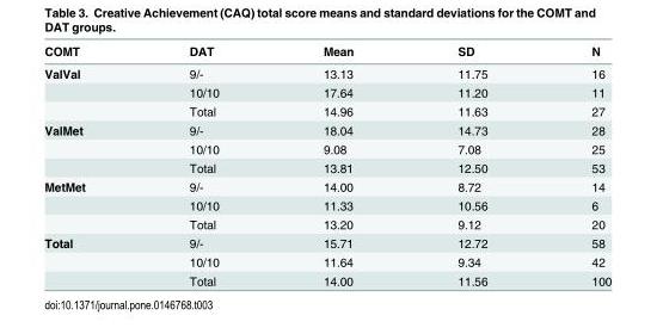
<table><thead><tr><td>COMT</td><td>DAT</td><td>Mean</td><td>SD</td><td>N</td></tr></thead><tbody><tr><td rowspan="3">ValVal</td><td>9/-</td><td>13.13</td><td>11.75</td><td>16</td></tr><tr><td>10/10</td><td>17.64</td><td>11.20</td><td>11</td></tr><tr><td>Total</td><td>14.96</td><td>11.63</td><td>27</td></tr><tr><td rowspan="3">ValMet</td><td>9/-</td><td>18.04</td><td>14.73</td><td>28</td></tr><tr><td>10/10</td><td>9.08</td><td>7.08</td><td>25</td></tr><tr><td>Total</td><td>13.81</td><td>12.50</td><td>53</td></tr><tr><td rowspan="3">MetMet</td><td>9/-</td><td>14.00</td><td>8.72</td><td>14</td></tr><tr><td>10/10</td><td>11.33</td><td>10.56</td><td>6</td></tr><tr><td>Total</td><td>13.20</td><td>9.12</td><td>20</td></tr><tr><td rowspan="3">Total</td><td>9/-</td><td>15.71</td><td>12.72</td><td>58</td></tr><tr><td>10/10</td><td>11.64</td><td>9.34</td><td>42</td></tr><tr><td>Total</td><td>14.00</td><td>11.56</td><td>100</td></tr></tbody></table>